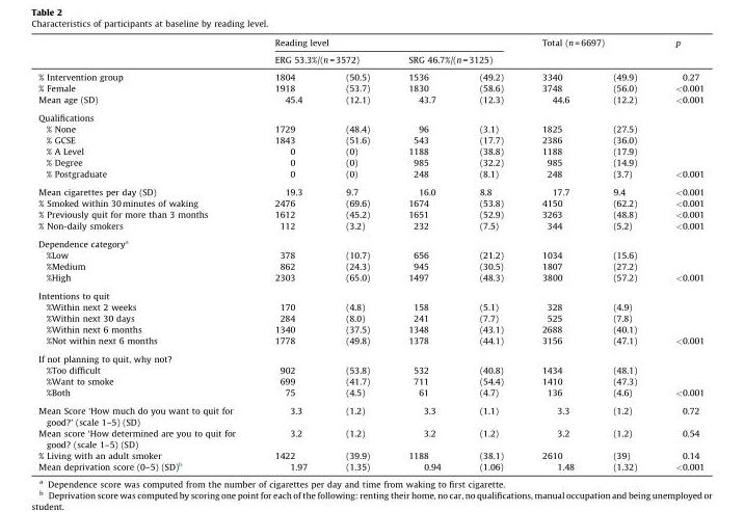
<table><thead><tr><td rowspan="3">% Intervention group</td><td colspan="4">Reading level</td><td colspan="2">Total (n = 6697)</td><td rowspan="3">p 0.27</td></tr><tr><td colspan="2">ERG 53.3%/(n = 3572)</td><td colspan="2">SRG 46.7%/(n = 3125)</td><td rowspan="2">3340</td><td rowspan="2">(49.9)</td></tr><tr><td>1804</td><td>(50.5)</td><td>1536</td><td>(49.2)</td></tr></thead><tbody><tr><td>% Female</td><td>1918</td><td>(53.7)</td><td>1830</td><td>(58.6)</td><td>3748</td><td>(56.0)</td><td>&lt;0.001</td></tr><tr><td>Mean age (SD)</td><td>45.4</td><td>(12.1)</td><td>43.7</td><td>(12.3)</td><td>44.6</td><td>(12.2)</td><td>&lt;0.001</td></tr><tr><td colspan="8">Qualifications</td></tr><tr><td>% None</td><td>1729</td><td>(48.4)</td><td>96</td><td>(3.1)</td><td>1825</td><td>(27.5)</td><td></td></tr><tr><td>% GCSE</td><td>1843</td><td>(51.6)</td><td>543</td><td>(17.7)</td><td>2386</td><td>(36.0)</td><td></td></tr><tr><td>% A Level</td><td>0</td><td>(0)</td><td>1188</td><td>(38.8)</td><td>1188</td><td>(17.9)</td><td></td></tr><tr><td>% Degree</td><td>0</td><td>(0)</td><td>985</td><td>(32.2)</td><td>985</td><td>(14.9)</td><td></td></tr><tr><td>% Postgraduate</td><td>0</td><td>(0)</td><td>248</td><td>(8.1)</td><td>248</td><td>(3.7)</td><td>&lt;0.001</td></tr><tr><td>Mean cigarettes per day (SD)</td><td>19.3</td><td>9.7</td><td>16.0</td><td>8.8</td><td>17.7</td><td>9.4</td><td>&lt;0.001</td></tr><tr><td>% Smoked within 30 minutes of waking</td><td>2476</td><td>(69.6)</td><td>1674</td><td>(53.8)</td><td>4150</td><td>(62.2)</td><td>&lt;0.001</td></tr><tr><td>% Previously quit for more than 3 months</td><td>1612</td><td>(45.2)</td><td>1651</td><td>(52.9)</td><td>3263</td><td>(48.8)</td><td>&lt;0.001</td></tr><tr><td>% Non-daily smokers</td><td>112</td><td>(3.2)</td><td>232</td><td>(7.5)</td><td>344</td><td>(5.2)</td><td>&lt;0.001</td></tr><tr><td colspan="8">Dependence category<sup>a</sup></td></tr><tr><td>%Low</td><td>378</td><td>(10.7)</td><td>656</td><td>(21.2)</td><td>1034</td><td>(15.6)</td><td></td></tr><tr><td>%Medium</td><td>862</td><td>(24.3)</td><td>945</td><td>(30.5)</td><td>1807</td><td>(27.2)</td><td></td></tr><tr><td>%High</td><td>2303</td><td>(65.0)</td><td>1497</td><td>(48.3)</td><td>3800</td><td>(57.2)</td><td>&lt;0.001</td></tr><tr><td colspan="8">Intentions to quit</td></tr><tr><td>%Within next 2 weeks</td><td>170</td><td>(4.8)</td><td>158</td><td>(5.1)</td><td>328</td><td>(4.9)</td><td></td></tr><tr><td>%Within next 30 days</td><td>284</td><td>(8.0)</td><td>241</td><td>(7.7)</td><td>525</td><td>(7.8)</td><td></td></tr><tr><td>%Within next 6 months</td><td>1340</td><td>(37.5)</td><td>1348</td><td>(43.1)</td><td>2688</td><td>(40.1)</td><td></td></tr><tr><td>%Not within next 6 months</td><td>1778</td><td>(49.8)</td><td>1378</td><td>(44.1)</td><td>3156</td><td>(47.1)</td><td>&lt;0.001</td></tr><tr><td colspan="8">If not planning to quit, why not?</td></tr><tr><td>%Too difficult</td><td>902</td><td>(53.8)</td><td>532</td><td>(40.8)</td><td>1434</td><td>(48.1)</td><td></td></tr><tr><td>%Want to smoke</td><td>699</td><td>(41.7)</td><td>711</td><td>(54.4)</td><td>1410</td><td>(47.3)</td><td></td></tr><tr><td>%Both</td><td>75</td><td>(4.5)</td><td>61</td><td>(4.7)</td><td>136</td><td>(4.6)</td><td>&lt;0.001</td></tr><tr><td>Mean Score ‘How much do you want to quit for good?’ (scale 1–5) (SD)</td><td>3.3</td><td>(1.2)</td><td>3.3</td><td>(1.1)</td><td>3.3</td><td>(1.2)</td><td>0.72</td></tr><tr><td>Mean score ‘How determined are you to quit for good? (scale 1–5) (SD)</td><td>3.2</td><td>(1.2)</td><td>3.2</td><td>(1.2)</td><td>3.2</td><td>(1.2)</td><td>0.54</td></tr><tr><td>% Living with an adult smoker</td><td>1422</td><td>(39.9)</td><td>1188</td><td>(38.1)</td><td>2610</td><td>(39)</td><td>0.14</td></tr><tr><td>Mean deprivation score (0–5) (SD)<sup>b</sup></td><td>1.97</td><td>(1.35)</td><td>0.94</td><td>(1.06)</td><td>1.48</td><td>(1.32)</td><td>&lt;0.001</td></tr></tbody></table>